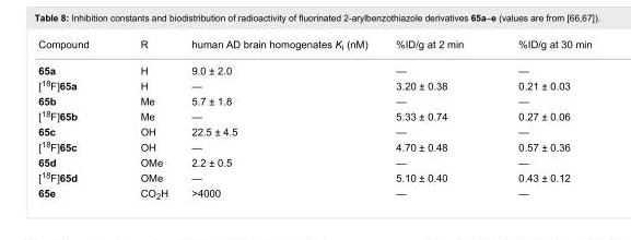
<table><tbody><tr><td>Compound</td><td>R</td><td>human AD brain homogenates K<sub>i</sub> (nM)</td><td>%ID/g at 2 min</td><td>%ID/g at 30 min</td></tr><tr><td>65a</td><td>H</td><td>9.0 ± 2.0</td><td>—</td><td>—</td></tr><tr><td>[<sup>18</sup>F]65a</td><td>H</td><td>—</td><td>3.20 ± 0.38</td><td>0.21 ± 0.03</td></tr><tr><td>65b</td><td>Me</td><td>5.7 ± 1.8</td><td>—</td><td>—</td></tr><tr><td>[<sup>18</sup>F]65b</td><td>Me</td><td>—</td><td>5.33 ± 0.74</td><td>0.27 ± 0.06</td></tr><tr><td>65c</td><td>OH</td><td>22.5 ± 4.5</td><td>—</td><td>—</td></tr><tr><td>[<sup>18</sup>F]65c</td><td>OH</td><td>—</td><td>4.70 ± 0.48</td><td>0.57 ± 0.36</td></tr><tr><td>65d</td><td>OMe</td><td>2.2 ± 0.5</td><td>—</td><td>—</td></tr><tr><td>[<sup>18</sup>F]65d</td><td>OMe</td><td>—</td><td>5.10 ± 0.40</td><td>0.43 ± 0.12</td></tr><tr><td>65e</td><td>CO<sub>2</sub>H</td><td>&gt;4000</td><td>—</td><td>—</td></tr></tbody></table>